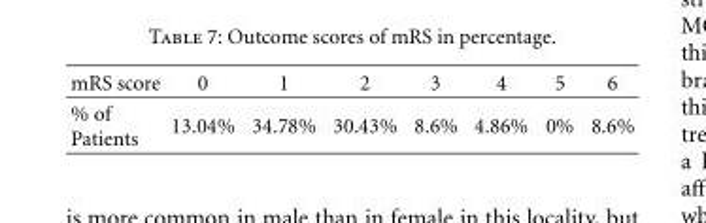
<table><thead><tr><td>mRS score</td><td>0</td><td>1</td><td>2</td><td>3</td><td>4</td><td>5</td><td>6</td></tr></thead><tbody><tr><td>% of Patients</td><td>13.04%</td><td>34.78%</td><td>30.43%</td><td>8.6%</td><td>4.86%</td><td>0%</td><td>8.6%</td></tr></tbody></table>